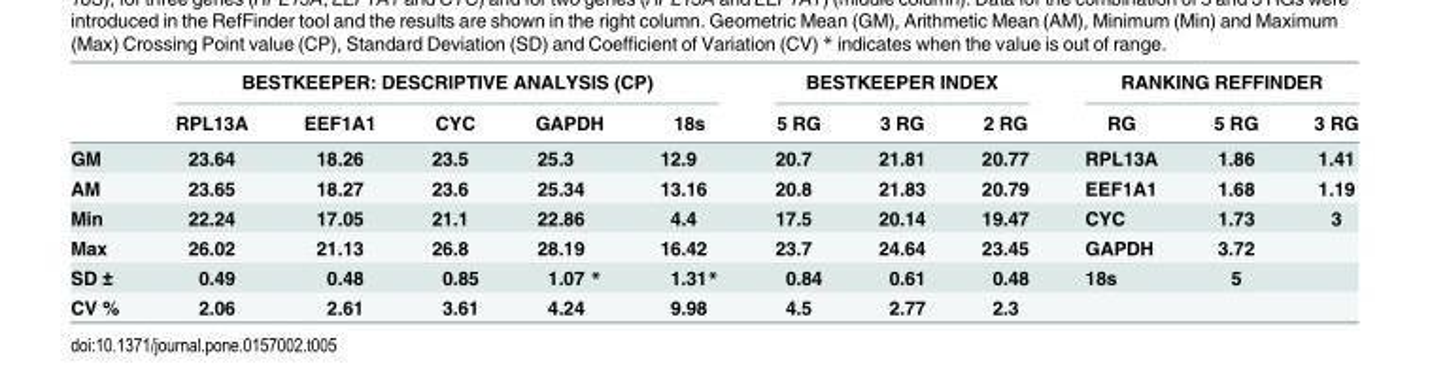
<table><thead><tr><td rowspan="2"></td><td colspan="5">BESTKEEPER: DESCRIPTIVE ANALYSIS (CP)</td><td colspan="3">BESTKEEPER INDEX</td><td colspan="3">RANKING REFFINDER</td></tr><tr><td>RPL13A</td><td>EEF1A1</td><td>CYC</td><td>GAPDH</td><td>18s</td><td>5 RG</td><td>3 RG</td><td>2 RG</td><td>RG</td><td>5 RG</td><td>3 RG</td></tr></thead><tbody><tr><td>GM</td><td>23.64</td><td>18.26</td><td>23.5</td><td>25.3</td><td>12.9</td><td>20.7</td><td>21.81</td><td>20.77</td><td>RPL13A</td><td>1.86</td><td>1.41</td></tr><tr><td>AM</td><td>23.65</td><td>18.27</td><td>23.6</td><td>25.34</td><td>13.16</td><td>20.8</td><td>21.83</td><td>20.79</td><td>EEF1A1</td><td>1.68</td><td>1.19</td></tr><tr><td>Min</td><td>22.24</td><td>17.05</td><td>21.1</td><td>22.86</td><td>4.4</td><td>17.5</td><td>20.14</td><td>19.47</td><td>CYC</td><td>1.73</td><td>3</td></tr><tr><td>Max</td><td>26.02</td><td>21.13</td><td>26.8</td><td>28.19</td><td>16.42</td><td>23.7</td><td>24.64</td><td>23.45</td><td>GAPDH</td><td>3.72</td><td></td></tr><tr><td>SD ±</td><td>0.49</td><td>0.48</td><td>0.85</td><td>1.07 *</td><td>1.31*</td><td>0.84</td><td>0.61</td><td>0.48</td><td>18s</td><td>5</td><td></td></tr><tr><td>CV %</td><td>2.06</td><td>2.61</td><td>3.61</td><td>4.24</td><td>9.98</td><td>4.5</td><td>2.77</td><td>2.3</td><td></td><td></td><td></td></tr></tbody></table>